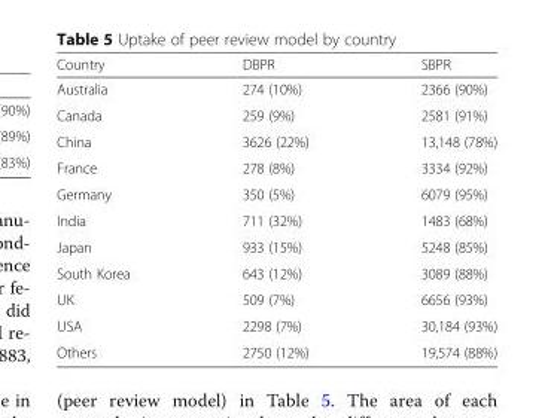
<table><thead><tr><td>Country</td><td>DBPR</td><td>SBPR</td></tr></thead><tbody><tr><td>Australia</td><td>274 (10%)</td><td>2366 (90%)</td></tr><tr><td>Canada</td><td>259 (9%)</td><td>2581 (91%)</td></tr><tr><td>China</td><td>3626 (22%)</td><td>13,148 (78%)</td></tr><tr><td>France</td><td>278 (8%)</td><td>3334 (92%)</td></tr><tr><td>Germany</td><td>350 (5%)</td><td>6079 (95%)</td></tr><tr><td>India</td><td>711 (32%)</td><td>1483 (68%)</td></tr><tr><td>Japan</td><td>933 (15%)</td><td>5248 (85%)</td></tr><tr><td>South Korea</td><td>643 (12%)</td><td>3089 (88%)</td></tr><tr><td>UK</td><td>509 (7%)</td><td>6656 (93%)</td></tr><tr><td>USA</td><td>2298 (7%)</td><td>30,184 (93%)</td></tr><tr><td>Others</td><td>2750 (12%)</td><td>19,574 (88%)</td></tr></tbody></table>